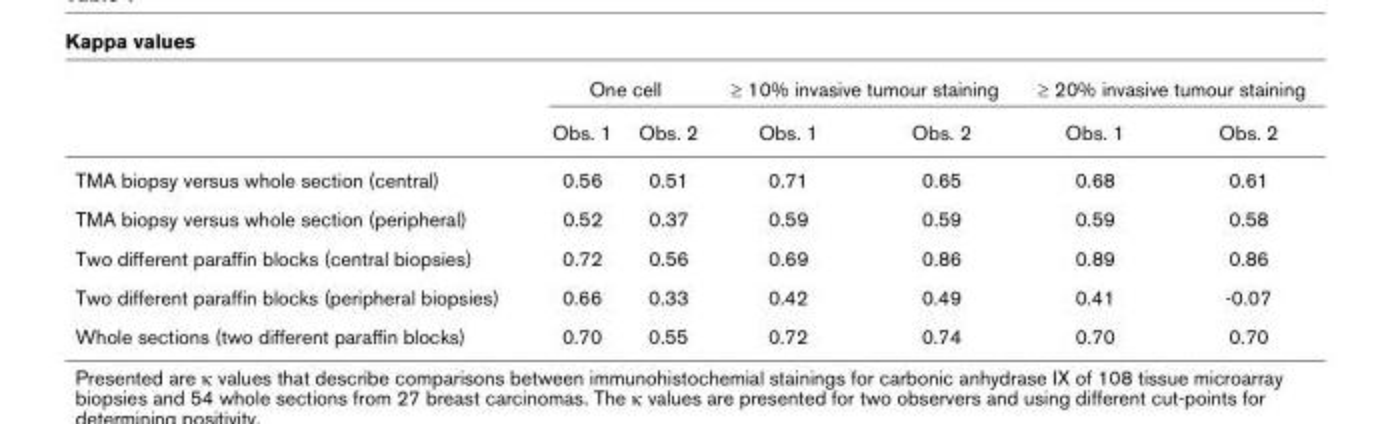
<table><thead><tr><td rowspan="2"></td><td colspan="2">One cell</td><td colspan="2">≥ 10% invasive tumour staining</td><td colspan="2">≥ 20% invasive tumour staining</td></tr><tr><td>Obs. 1</td><td>Obs. 2</td><td>Obs. 1</td><td>Obs. 2</td><td>Obs. 1</td><td>Obs. 2</td></tr></thead><tbody><tr><td>TMA biopsy versus whole section (central)</td><td>0.56</td><td>0.51</td><td>0.71</td><td>0.65</td><td>0.68</td><td>0.61</td></tr><tr><td>TMA biopsy versus whole section (peripheral)</td><td>0.52</td><td>0.37</td><td>0.59</td><td>0.59</td><td>0.59</td><td>0.58</td></tr><tr><td>Two different paraffin blocks (central biopsies)</td><td>0.72</td><td>0.56</td><td>0.69</td><td>0.86</td><td>0.89</td><td>0.86</td></tr><tr><td>Two different paraffin blocks (peripheral biopsies)</td><td>0.66</td><td>0.33</td><td>0.42</td><td>0.49</td><td>0.41</td><td>-0.07</td></tr><tr><td>Whole sections (two different paraffin blocks)</td><td>0.70</td><td>0.55</td><td>0.72</td><td>0.74</td><td>0.70</td><td>0.70</td></tr></tbody></table>